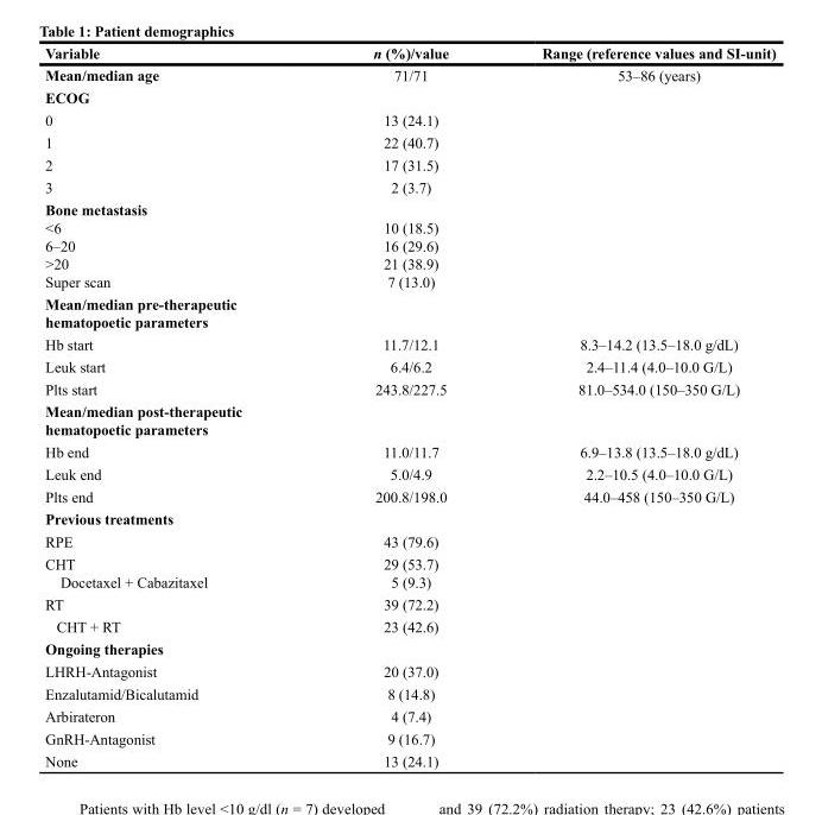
<table><thead><tr><td>Variable</td><td>n (%)/value</td><td>Range (reference values and SI-unit)</td></tr></thead><tbody><tr><td>Mean/median age</td><td>71/71</td><td>53–86 (years)</td></tr><tr><td colspan="3">ECOG</td></tr><tr><td>0</td><td>13 (24.1)</td><td></td></tr><tr><td>1</td><td>22 (40.7)</td><td></td></tr><tr><td>2</td><td>17 (31.5)</td><td></td></tr><tr><td>3</td><td>2 (3.7)</td><td></td></tr><tr><td colspan="3">Bone metastasis</td></tr><tr><td>&lt;6</td><td>10 (18.5)</td><td></td></tr><tr><td>6–20</td><td>16 (29.6)</td><td></td></tr><tr><td>&gt;20</td><td>21 (38.9)</td><td></td></tr><tr><td>Super scan</td><td>7 (13.0)</td><td></td></tr><tr><td colspan="3">Mean/median pre-therapeutic hematopoetic parameters</td></tr><tr><td>Hb start</td><td>11.7/12.1</td><td>8.3–14.2 (13.5–18.0 g/dL)</td></tr><tr><td>Leuk start</td><td>6.4/6.2</td><td>2.4–11.4 (4.0–10.0 G/L)</td></tr><tr><td>Plts start</td><td>243.8/227.5</td><td>81.0–534.0 (150–350 G/L)</td></tr><tr><td colspan="3">Mean/median post-therapeutic hematopoetic parameters</td></tr><tr><td>Hb end</td><td>11.0/11.7</td><td>6.9–13.8 (13.5–18.0 g/dL)</td></tr><tr><td>Leuk end</td><td>5.0/4.9</td><td>2.2–10.5 (4.0–10.0 G/L)</td></tr><tr><td>Plts end</td><td>200.8/198.0</td><td>44.0–458 (150–350 G/L)</td></tr><tr><td colspan="3">Previous treatments</td></tr><tr><td>RPE</td><td>43 (79.6)</td><td></td></tr><tr><td>CHT</td><td>29 (53.7)</td><td></td></tr><tr><td>Docetaxel + Cabazitaxel</td><td>5 (9.3)</td><td></td></tr><tr><td>RT</td><td>39 (72.2)</td><td></td></tr><tr><td>CHT + RT</td><td>23 (42.6)</td><td></td></tr><tr><td colspan="3">Ongoing therapies</td></tr><tr><td>LHRH-Antagonist</td><td>20 (37.0)</td><td></td></tr><tr><td>Enzalutamid/Bicalutamid</td><td>8 (14.8)</td><td></td></tr><tr><td>Arbirateron</td><td>4 (7.4)</td><td></td></tr><tr><td>GnRH-Antagonist</td><td>9 (16.7)</td><td></td></tr><tr><td>None</td><td>13 (24.1)</td><td></td></tr></tbody></table>